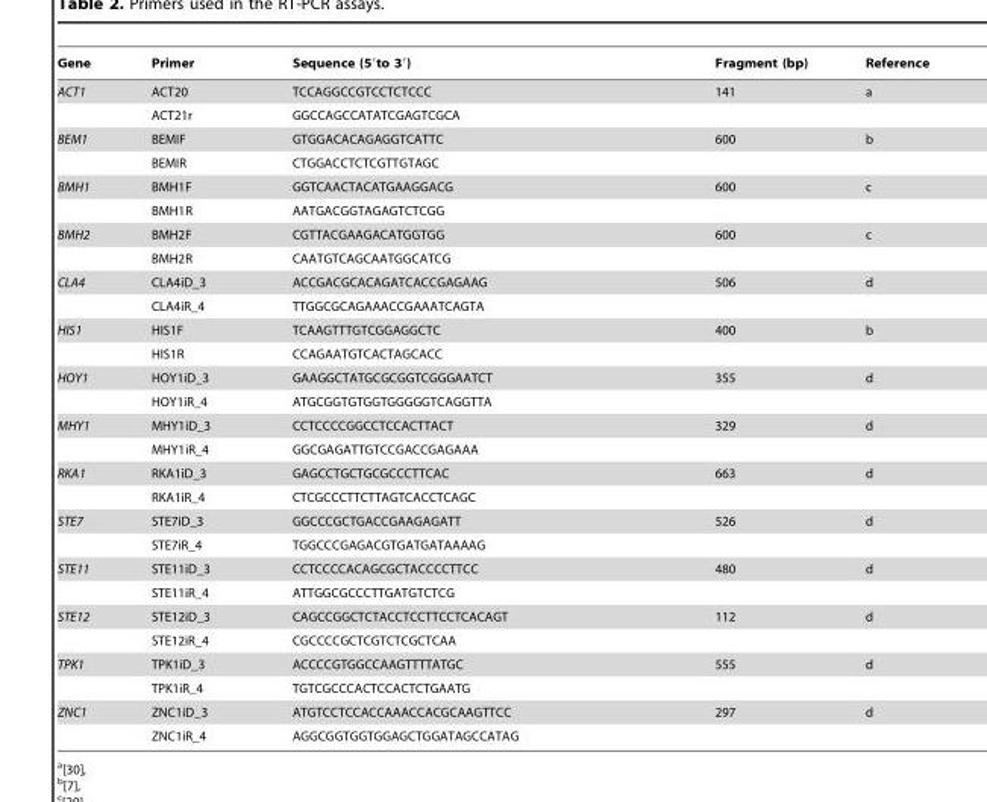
<table><thead><tr><td>Gene</td><td>Primer</td><td>Sequence (5′to 3′)</td><td>Fragment (bp)</td><td>Reference</td></tr></thead><tbody><tr><td rowspan="2">ACT1</td><td>ACT20</td><td>TCCAGGCCGTCCTCTCCC</td><td>141</td><td>a</td></tr><tr><td>ACT21r</td><td>GGCCAGCCATATCGAGTCGCA</td><td></td><td></td></tr><tr><td rowspan="2">BEM1</td><td>BEMIF</td><td>GTGGACACAGAGGTCATTC</td><td>600</td><td>b</td></tr><tr><td>BEMIR</td><td>CTGGACCTCTCGTTGTAGC</td><td></td><td></td></tr><tr><td rowspan="2">BMH1</td><td>BMH1F</td><td>GGTCAACTACATGAAGGACG</td><td>600</td><td>c</td></tr><tr><td>BMH1R</td><td>AATGACGGTAGAGTCTCGG</td><td></td><td></td></tr><tr><td rowspan="2">BMH2</td><td>BMH2F</td><td>CGTTACGAAGACATGGTGG</td><td>600</td><td>c</td></tr><tr><td>BMH2R</td><td>CAATGTCAGCAATGGCATCG</td><td></td><td></td></tr><tr><td rowspan="2">CLA4</td><td>CLA4iD_3</td><td>ACCGACGCACAGATCACCGAGAAG</td><td>506</td><td>d</td></tr><tr><td>CLA4iR_4</td><td>TTGGCGCAGAAACCGAAATCAGTA</td><td></td><td></td></tr><tr><td rowspan="2">HIS1</td><td>HIS1F</td><td>TCAAGTTTGTCGGAGGCTC</td><td>400</td><td>b</td></tr><tr><td>HIS1R</td><td>CCAGAATGTCACTAGCACC</td><td></td><td></td></tr><tr><td rowspan="2">HOY1</td><td>HOY1iD_3</td><td>GAAGGCTATGCGCGGTCGGGAATCT</td><td>355</td><td>d</td></tr><tr><td>HOY1iR_4</td><td>ATGCGGTGTGGTGGGGGTCAGGTTA</td><td></td><td></td></tr><tr><td rowspan="2">MHY1</td><td>MHY1iD_3</td><td>CCTCCCCGGCCTCCACTTACT</td><td>329</td><td>d</td></tr><tr><td>MHY1iR_4</td><td>GGCGAGATTGTCCGACCGAGAAA</td><td></td><td></td></tr><tr><td rowspan="2">RKA1</td><td>RKA1iD_3</td><td>GAGCCTGCTGCGCCCTTCAC</td><td>663</td><td>d</td></tr><tr><td>RKA1iR_4</td><td>CTCGCCCTTCTTAGTCACCTCAGC</td><td></td><td></td></tr><tr><td rowspan="2">STE7</td><td>STE7iD_3</td><td>GGCCCGCTGACCGAAGAGATT</td><td>526</td><td>d</td></tr><tr><td>STE7iR_4</td><td>TGGCCCGAGACGTGATGATAAAAG</td><td></td><td></td></tr><tr><td rowspan="2">STE11</td><td>STE11iD_3</td><td>CCTCCCCACAGCGCTACCCCTTCC</td><td>480</td><td>d</td></tr><tr><td>STE11iR_4</td><td>ATTGGCGCCCTTGATGTCTCG</td><td></td><td></td></tr><tr><td rowspan="2">STE12</td><td>STE12iD_3</td><td>CAGCCGGCTCTACCTCCTTCCTCACAGT</td><td>112</td><td>d</td></tr><tr><td>STE12iR_4</td><td>CGCCCCGCTCGTCTCGCTCAA</td><td></td><td></td></tr><tr><td rowspan="2">TPK1</td><td>TPK1iD_3</td><td>ACCCCGTGGCCAAGTTTTATGC</td><td>555</td><td>d</td></tr><tr><td>TPK1iR_4</td><td>TGTCGCCCACTCCACTCTGAATG</td><td></td><td></td></tr><tr><td rowspan="2">ZNC1</td><td>ZNC1iD_3</td><td>ATGTCCTCCACCAAACCACGCAAGTTCC</td><td>297</td><td>d</td></tr><tr><td>ZNC1iR_4</td><td>AGGCGGTGGTGGAGCTGGATAGCCATAG</td><td></td><td></td></tr></tbody></table>